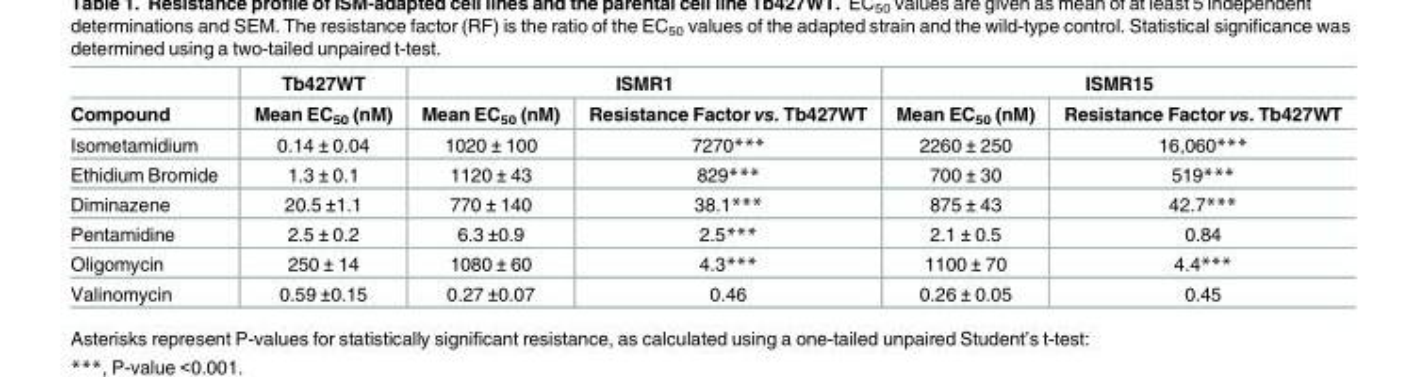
<table><thead><tr><td rowspan="2">Compound</td><td rowspan="2">Tb427WT Mean EC<sub>50</sub> (nM)</td><td colspan="2">ISMR1</td><td colspan="2">ISMR15</td></tr><tr><td>Mean EC<sub>50</sub> (nM)</td><td>Resistance Factor vs. Tb427WT</td><td>Mean EC<sub>50</sub> (nM)</td><td>Resistance Factor vs. Tb427WT</td></tr></thead><tbody><tr><td>Isometamidium</td><td>0.14 ± 0.04</td><td>1020 ± 100</td><td>7270***</td><td>2260 ± 250</td><td>16,060***</td></tr><tr><td>Ethidium Bromide</td><td>1.3 ± 0.1</td><td>1120 ± 43</td><td>829***</td><td>700 ± 30</td><td>519***</td></tr><tr><td>Diminazene</td><td>20.5 ±1.1</td><td>770 ± 140</td><td>38.1***</td><td>875 ± 43</td><td>42.7***</td></tr><tr><td>Pentamidine</td><td>2.5 ± 0.2</td><td>6.3 ±0.9</td><td>2.5***</td><td>2.1 ± 0.5</td><td>0.84</td></tr><tr><td>Oligomycin</td><td>250 ± 14</td><td>1080 ± 60</td><td>4.3***</td><td>1100 ± 70</td><td>4.4***</td></tr><tr><td>Valinomycin</td><td>0.59 ±0.15</td><td>0.27 ±0.07</td><td>0.46</td><td>0.26 ± 0.05</td><td>0.45</td></tr></tbody></table>